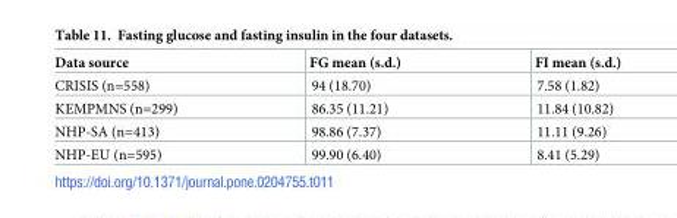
<table><thead><tr><td>Data source</td><td>FG mean (s.d.)</td><td>FI mean (s.d.)</td></tr></thead><tbody><tr><td>CRISIS (n=558)</td><td>94 (18.70)</td><td>7.58 (1.82)</td></tr><tr><td>KEMPMNS (n=299)</td><td>86.35 (11.21)</td><td>11.84 (10.82)</td></tr><tr><td>NHP-SA (n=413)</td><td>98.86 (7.37)</td><td>11.11 (9.26)</td></tr><tr><td>NHP-EU (n=595)</td><td>99.90 (6.40)</td><td>8.41 (5.29)</td></tr></tbody></table>